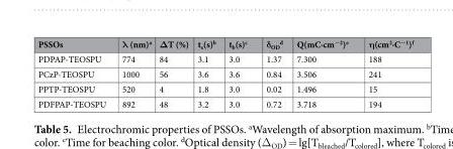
<table><thead><tr><td>PSSOs</td><td>λ (nm)<sup>a</sup></td><td>ΔT (%)</td><td>t<sub>s</sub>(s)<sup>b</sup></td><td>t<sub>b</sub>(s)<sup>c</sup></td><td>δ<sub>OD</sub> <sup>d</sup></td><td>Q(mC·cm<sup>−2</sup>)<sup>e</sup></td><td>η(cm<sup>2</sup>·C<sup>−1</sup>)<sup>f</sup></td></tr></thead><tbody><tr><td>PDPAP-TEOSPU</td><td>774</td><td>84</td><td>3.1</td><td>3.0</td><td>1.37</td><td>7.300</td><td>188</td></tr><tr><td>PCzP-TEOSPU</td><td>1000</td><td>56</td><td>3.6</td><td>3.6</td><td>0.84</td><td>3.506</td><td>241</td></tr><tr><td>PPTP-TEOSPU</td><td>520</td><td>4</td><td>1.8</td><td>3.0</td><td>0.02</td><td>1.496</td><td>15</td></tr><tr><td>PDFPAP-TEOSPU</td><td>892</td><td>48</td><td>3.2</td><td>3.0</td><td>0.72</td><td>3.718</td><td>194</td></tr></tbody></table>